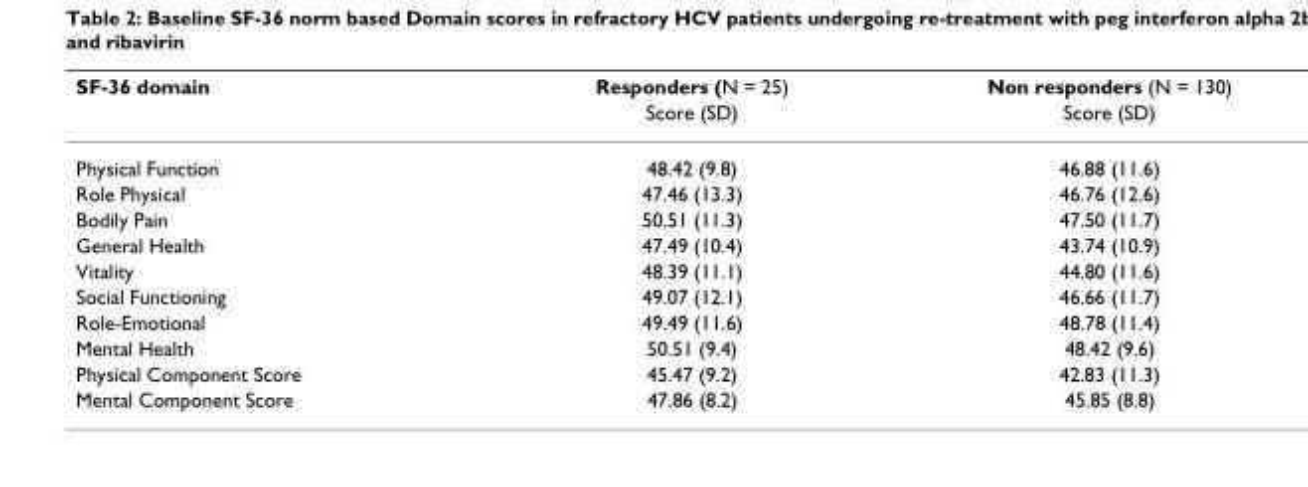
<table><thead><tr><td rowspan="2">SF-36 domain</td><td rowspan="2">Responders (N = 25) Score (SD)</td><td rowspan="2">Non responders (N = 130) Score (SD)</td></tr><tr></tr></thead><tbody><tr><td>Physical Function</td><td>48.42 (9.8)</td><td>46.88 (11.6)</td></tr><tr><td>Role Physical</td><td>47.46 (13.3)</td><td>46.76 (12.6)</td></tr><tr><td>Bodily Pain</td><td>50.51 (11.3)</td><td>47.50 (11.7)</td></tr><tr><td>General Health</td><td>47.49 (10.4)</td><td>43.74 (10.9)</td></tr><tr><td>Vitality</td><td>48.39 (11.1)</td><td>44.80 (11.6)</td></tr><tr><td>Social Functioning</td><td>49.07 (12.1)</td><td>46.66 (11.7)</td></tr><tr><td>Role-Emotional</td><td>49.49 (11.6)</td><td>48.78 (11.4)</td></tr><tr><td>Mental Health</td><td>50.51 (9.4)</td><td>48.42 (9.6)</td></tr><tr><td>Physical Component Score</td><td>45.47 (9.2)</td><td>42.83 (11.3)</td></tr><tr><td>Mental Component Score</td><td>47.86 (8.2)</td><td>45.85 (8.8)</td></tr></tbody></table>